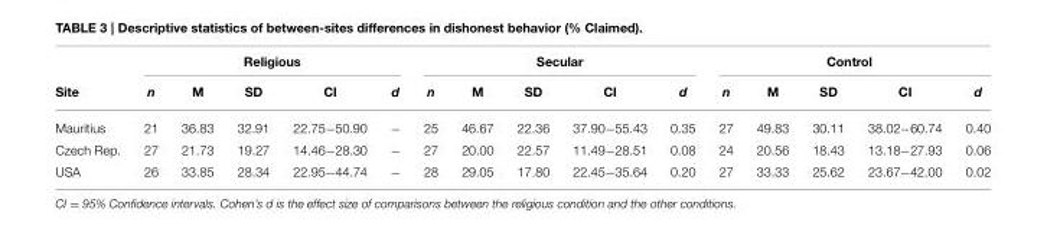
<table><thead><tr><td rowspan="2">Site</td><td colspan="5">Religious</td><td colspan="5">Secular</td><td colspan="5">Control</td></tr><tr><td>n</td><td>M</td><td>SD</td><td>CI</td><td>d</td><td>n</td><td>M</td><td>SD</td><td>CI</td><td>d</td><td>n</td><td>M</td><td>SD</td><td>CI</td><td>d</td></tr></thead><tbody><tr><td>Mauritius</td><td>21</td><td>36.83</td><td>32.91</td><td>22.75−50.90</td><td>−</td><td>25</td><td>46.67</td><td>22.36</td><td>37.90−55.43</td><td>0.35</td><td>27</td><td>49.83</td><td>30.11</td><td>38.02−60.74</td><td>0.40</td></tr><tr><td>Czech Rep.</td><td>27</td><td>21.73</td><td>19.27</td><td>14.46−28.30</td><td>−</td><td>27</td><td>20.00</td><td>22.57</td><td>11.49−28.51</td><td>0.08</td><td>24</td><td>20.56</td><td>18.43</td><td>13.18−27.93</td><td>0.06</td></tr><tr><td>USA</td><td>26</td><td>33.85</td><td>28.34</td><td>22.95−44.74</td><td>−</td><td>28</td><td>29.05</td><td>17.80</td><td>22.45−35.64</td><td>0.20</td><td>27</td><td>33.33</td><td>25.62</td><td>23.67−42.00</td><td>0.02</td></tr></tbody></table>